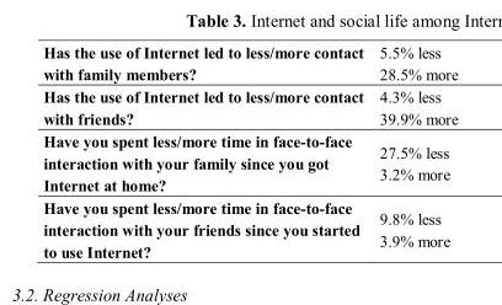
<table><tbody><tr><td>Has the use of Internet led to less/more contact with family members?</td><td>5.5% less 28.5% more</td></tr><tr><td>Has the use of Internet led to less/more contact with friends?</td><td>4.3% less 39.9% more</td></tr><tr><td>Have you spent less/more time in face-to-face interaction with your family since you got Internet at home?</td><td>27.5% less 3.2% more</td></tr><tr><td>Have you spent less/more time in face-to-face interaction with your friends since you started to use Internet?</td><td>9.8% less 3.9% more</td></tr></tbody></table>